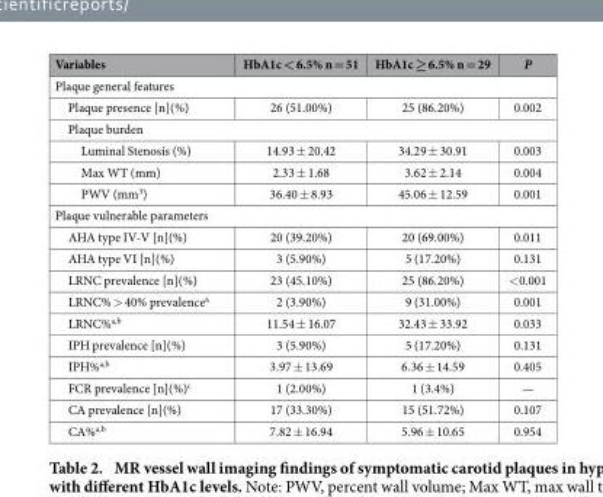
<table><thead><tr><td>Variables</td><td>HbA1c &lt; 6.5% n = 51</td><td>HbA1c ≥ 6.5% n = 29</td><td>P</td></tr></thead><tbody><tr><td colspan="4">Plaque general features</td></tr><tr><td>Plaque presence [n](%)</td><td>26 (51.00%)</td><td>25 (86.20%)</td><td>0.002</td></tr><tr><td colspan="4">Plaque burden</td></tr><tr><td>Luminal Stenosis (%)</td><td>14.93 ± 20.42</td><td>34.29 ± 30.91</td><td>0.003</td></tr><tr><td>Max WT (mm)</td><td>2.33 ± 1.68</td><td>3.62 ± 2.14</td><td>0.004</td></tr><tr><td>PWV (mm<sup>3</sup>)</td><td>36.40 ± 8.93</td><td>45.06 ± 12.59</td><td>0.001</td></tr><tr><td colspan="4">Plaque vulnerable parameters</td></tr><tr><td>AHA type IV-V [n](%)</td><td>20 (39.20%)</td><td>20 (69.00%)</td><td>0.011</td></tr><tr><td>AHA type VI [n](%)</td><td>3 (5.90%)</td><td>5 (17.20%)</td><td>0.131</td></tr><tr><td>LRNC prevalence [n](%)</td><td>23 (45.10%)</td><td>25 (86.20%)</td><td>&lt; 0.001</td></tr><tr><td>LRNC% &gt; 40% prevalence<sup>a</sup></td><td>2 (3.90%)</td><td>9 (31.00%)</td><td>0.001</td></tr><tr><td>LRNC%<sup>a,b</sup></td><td>11.54 ± 16.07</td><td>32.43 ± 33.92</td><td>0.033</td></tr><tr><td>IPH prevalence [n](%)</td><td>3 (5.90%)</td><td>5 (17.20%)</td><td>0.131</td></tr><tr><td>IPH%a,<sup>b</sup></td><td>3.97 ± 13.69</td><td>6.36 ± 14.59</td><td>0.405</td></tr><tr><td>FCR prevalence [n](%)<sup>c</sup></td><td>1 (2.00%)</td><td>1 (3.4%)</td><td>—</td></tr><tr><td>CA prevalence [n](%)</td><td>17 (33.30%)</td><td>15 (51.72%)</td><td>0.107</td></tr><tr><td>CA%<sup>a</sup>,<sup>b</sup></td><td>7.82 ± 16.94</td><td>5.96 ± 10.65</td><td>0.954</td></tr></tbody></table>